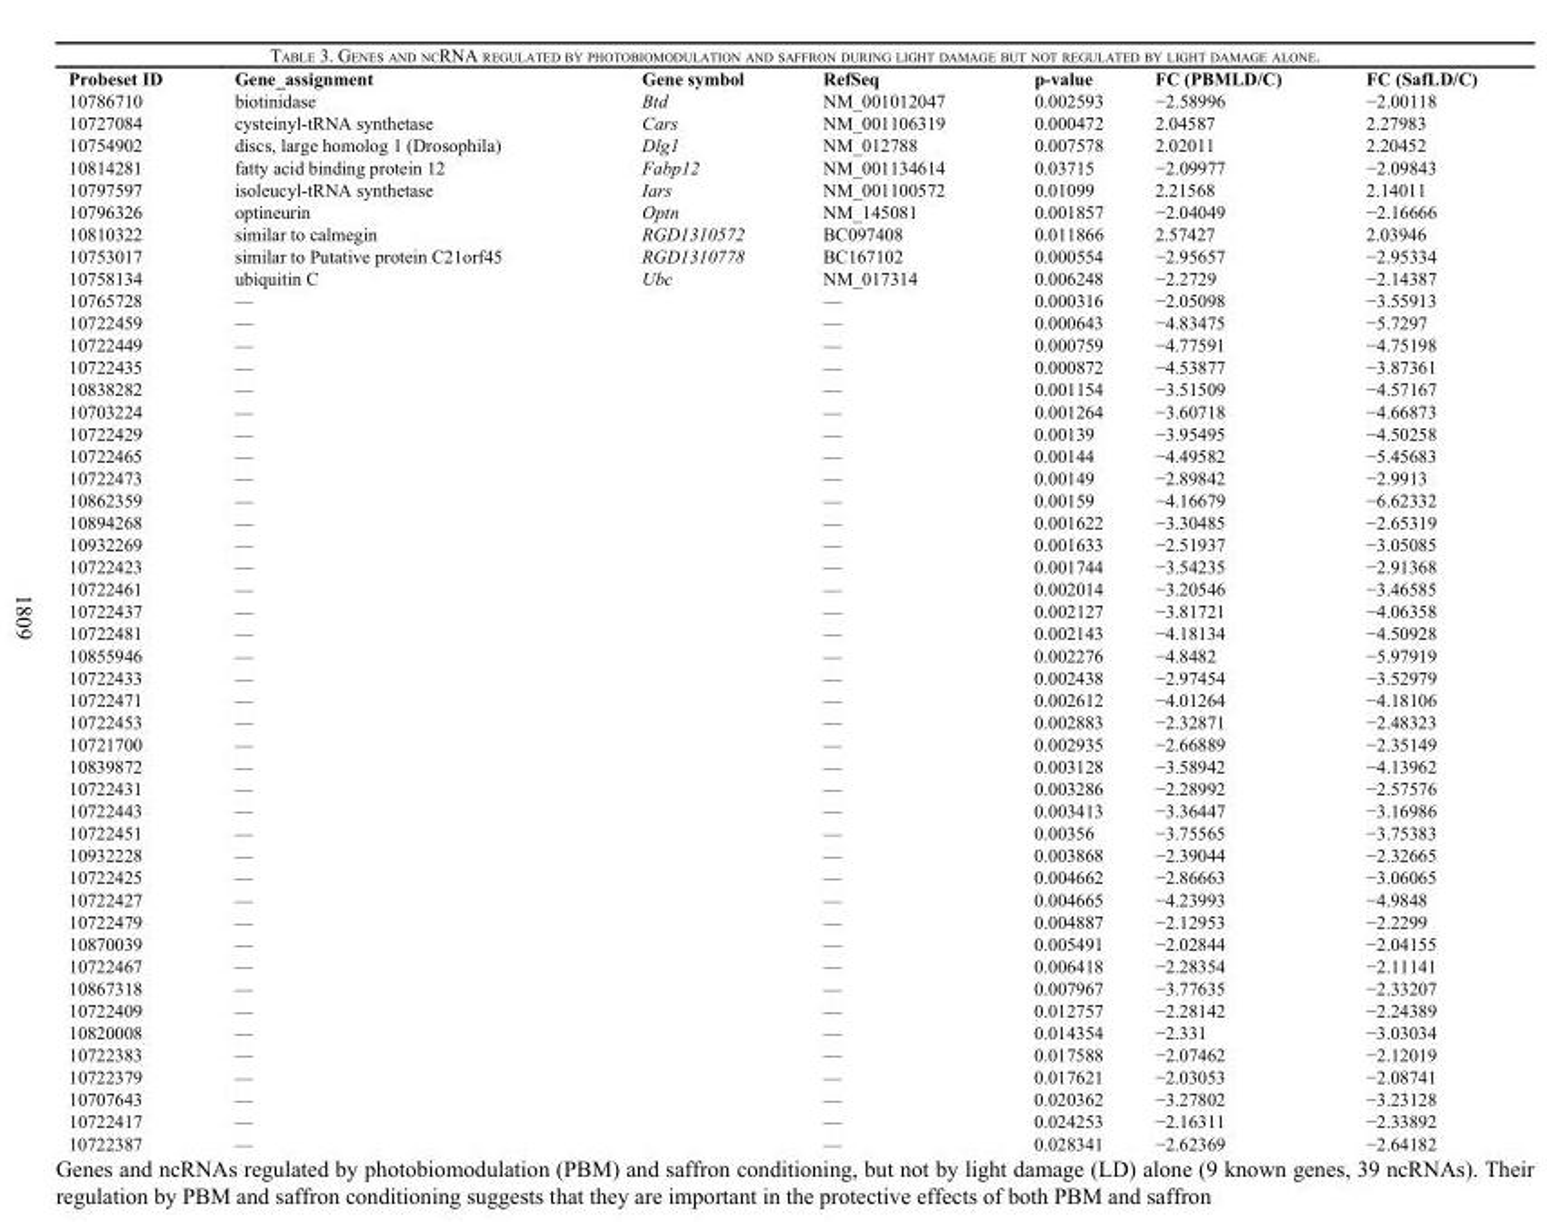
<table><thead><tr><td>Probeset ID</td><td>Gene_assignment</td><td>Gene symbol</td><td>RefSeq</td><td>p-value</td><td>FC (PBMLD/C)</td><td>FC (SafLD/C)</td></tr></thead><tbody><tr><td>10786710</td><td>biotinidase</td><td>Btd</td><td>NM_001012047</td><td>0.002593</td><td>−2.58996</td><td>−2.00118</td></tr><tr><td>10727084</td><td>cysteinyl-tRNA synthetase</td><td>Cars</td><td>NM_001106319</td><td>0.000472</td><td>2.04587</td><td>2.27983</td></tr><tr><td>10754902</td><td>discs, large homolog 1 (Drosophila)</td><td>Dlg1</td><td>NM_012788</td><td>0.007578</td><td>2.02011</td><td>2.20452</td></tr><tr><td>10814281</td><td>fatty acid binding protein 12</td><td>Fabp12</td><td>NM_001134614</td><td>0.03715</td><td>−2.09977</td><td>−2.09843</td></tr><tr><td>10797597</td><td>isoleucyl-tRNA synthetase</td><td>Iars</td><td>NM_001100572</td><td>0.01099</td><td>2.21568</td><td>2.14011</td></tr><tr><td>10796326</td><td>optineurin</td><td>Optn</td><td>NM_145081</td><td>0.001857</td><td>−2.04049</td><td>−2.16666</td></tr><tr><td>10810322</td><td>similar to calmegin</td><td>RGD1310572</td><td>BC097408</td><td>0.011866</td><td>2.57427</td><td>2.03946</td></tr><tr><td>10753017</td><td>similar to Putative protein C21orf45</td><td>RGD1310778</td><td>BC167102</td><td>0.000554</td><td>−2.95657</td><td>−2.95334</td></tr><tr><td>10758134</td><td>ubiquitin C</td><td>Ubc</td><td>NM_017314</td><td>0.006248</td><td>−2.2729</td><td>−2.14387</td></tr><tr><td>10765728</td><td>—</td><td></td><td>—</td><td>0.000316</td><td>−2.05098</td><td>−3.55913</td></tr><tr><td>10722459</td><td>—</td><td></td><td>—</td><td>0.000643</td><td>−4.83475</td><td>−5.7297</td></tr><tr><td>10722449</td><td>—</td><td></td><td>—</td><td>0.000759</td><td>−4.77591</td><td>−4.75198</td></tr><tr><td>10722435</td><td>—</td><td></td><td>—</td><td>0.000872</td><td>−4.53877</td><td>−3.87361</td></tr><tr><td>10838282</td><td>—</td><td></td><td>—</td><td>0.001154</td><td>−3.51509</td><td>−4.57167</td></tr><tr><td>10703224</td><td>—</td><td></td><td>—</td><td>0.001264</td><td>−3.60718</td><td>−4.66873</td></tr><tr><td>10722429</td><td>—</td><td></td><td>—</td><td>0.00139</td><td>−3.95495</td><td>−4.50258</td></tr><tr><td>10722465</td><td>—</td><td></td><td>—</td><td>0.00144</td><td>−4.49582</td><td>−5.45683</td></tr><tr><td>10722473</td><td>—</td><td></td><td>—</td><td>0.00149</td><td>−2.89842</td><td>−2.9913</td></tr><tr><td>10862359</td><td>—</td><td></td><td>—</td><td>0.00159</td><td>−4.16679</td><td>−6.62332</td></tr><tr><td>10894268</td><td>—</td><td></td><td>—</td><td>0.001622</td><td>−3.30485</td><td>−2.65319</td></tr><tr><td>10932269</td><td>—</td><td></td><td>—</td><td>0.001633</td><td>−2.51937</td><td>−3.05085</td></tr><tr><td>10722423</td><td>—</td><td></td><td>—</td><td>0.001744</td><td>−3.54235</td><td>−2.91368</td></tr><tr><td>10722461</td><td>—</td><td></td><td>—</td><td>0.002014</td><td>−3.20546</td><td>−3.46585</td></tr><tr><td>10722437</td><td>—</td><td></td><td>—</td><td>0.002127</td><td>−3.81721</td><td>−4.06358</td></tr><tr><td>10722481</td><td>—</td><td></td><td>—</td><td>0.002143</td><td>−4.18134</td><td>−4.50928</td></tr><tr><td>10855946</td><td>—</td><td></td><td>—</td><td>0.002276</td><td>−4.8482</td><td>−5.97919</td></tr><tr><td>10722433</td><td>—</td><td></td><td>—</td><td>0.002438</td><td>−2.97454</td><td>−3.52979</td></tr><tr><td>10722471</td><td>—</td><td></td><td>—</td><td>0.002612</td><td>−4.01264</td><td>−4.18106</td></tr><tr><td>10722453</td><td>—</td><td></td><td>—</td><td>0.002883</td><td>−2.32871</td><td>−2.48323</td></tr><tr><td>10721700</td><td>—</td><td></td><td>—</td><td>0.002935</td><td>−2.66889</td><td>−2.35149</td></tr><tr><td>10839872</td><td>—</td><td></td><td>—</td><td>0.003128</td><td>−3.58942</td><td>−4.13962</td></tr><tr><td>10722431</td><td>—</td><td></td><td>—</td><td>0.003286</td><td>−2.28992</td><td>−2.57576</td></tr><tr><td>10722443</td><td>—</td><td></td><td>—</td><td>0.003413</td><td>−3.36447</td><td>−3.16986</td></tr><tr><td>10722451</td><td>—</td><td></td><td>—</td><td>0.00356</td><td>−3.75565</td><td>−3.75383</td></tr><tr><td>10932228</td><td>—</td><td></td><td>—</td><td>0.003868</td><td>−2.39044</td><td>−2.32665</td></tr><tr><td>10722425</td><td>—</td><td></td><td>—</td><td>0.004662</td><td>−2.86663</td><td>−3.06065</td></tr><tr><td>10722427</td><td>—</td><td></td><td>—</td><td>0.004665</td><td>−4.23993</td><td>−4.9848</td></tr><tr><td>10722479</td><td>—</td><td></td><td>—</td><td>0.004887</td><td>−2.12953</td><td>−2.2299</td></tr><tr><td>10870039</td><td>—</td><td></td><td>—</td><td>0.005491</td><td>−2.02844</td><td>−2.04155</td></tr><tr><td>10722467</td><td>—</td><td></td><td>—</td><td>0.006418</td><td>−2.28354</td><td>−2.11141</td></tr><tr><td>10867318</td><td>—</td><td></td><td>—</td><td>0.007967</td><td>−3.77635</td><td>−2.33207</td></tr><tr><td>10722409</td><td>—</td><td></td><td>—</td><td>0.012757</td><td>−2.28142</td><td>−2.24389</td></tr><tr><td>10820008</td><td>—</td><td></td><td>—</td><td>0.014354</td><td>−2.331</td><td>−3.03034</td></tr><tr><td>10722383</td><td>—</td><td></td><td>—</td><td>0.017588</td><td>−2.07462</td><td>−2.12019</td></tr><tr><td>10722379</td><td>—</td><td></td><td>—</td><td>0.017621</td><td>−2.03053</td><td>−2.08741</td></tr><tr><td>10707643</td><td>—</td><td></td><td>—</td><td>0.020362</td><td>−3.27802</td><td>−3.23128</td></tr><tr><td>10722417</td><td>—</td><td></td><td>—</td><td>0.024253</td><td>−2.16311</td><td>−2.33892</td></tr><tr><td>10722387</td><td>—</td><td></td><td>—</td><td>0.028341</td><td>−2.62369</td><td>−2.64182</td></tr></tbody></table>